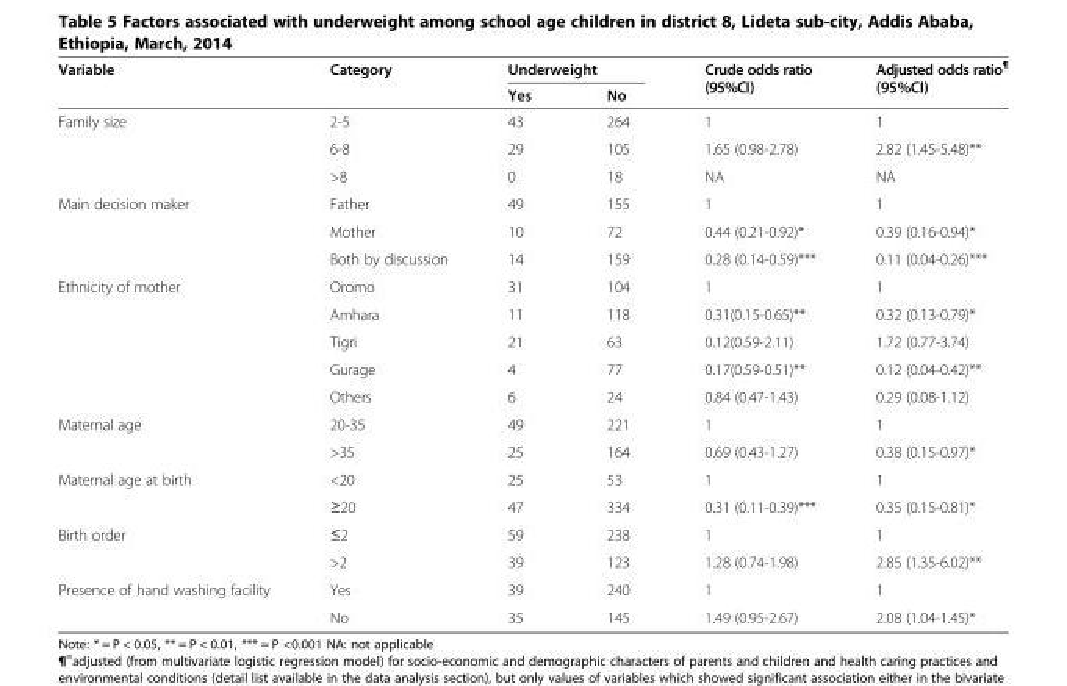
<table><thead><tr><td rowspan="2">Variable</td><td rowspan="2">Category</td><td colspan="2">Underweight</td><td rowspan="2">Crude odds ratio (95%CI)</td><td rowspan="2">Adjusted odds ratio<sup>¶</sup> (95%CI)</td></tr><tr><td>Yes</td><td>No</td></tr></thead><tbody><tr><td rowspan="3">Family size</td><td>2-5</td><td>43</td><td>264</td><td>1</td><td>1</td></tr><tr><td>6-8</td><td>29</td><td>105</td><td>1.65 (0.98-2.78)</td><td>2.82 (1.45-5.48)**</td></tr><tr><td>&gt;8</td><td>0</td><td>18</td><td>NA</td><td>NA</td></tr><tr><td rowspan="3">Main decision maker</td><td>Father</td><td>49</td><td>155</td><td>1</td><td>1</td></tr><tr><td>Mother</td><td>10</td><td>72</td><td>0.44 (0.21-0.92)*</td><td>0.39 (0.16-0.94)*</td></tr><tr><td>Both by discussion</td><td>14</td><td>159</td><td>0.28 (0.14-0.59)***</td><td>0.11 (0.04-0.26)***</td></tr><tr><td rowspan="5">Ethnicity of mother</td><td>Oromo</td><td>31</td><td>104</td><td>1</td><td>1</td></tr><tr><td>Amhara</td><td>11</td><td>118</td><td>0.31(0.15-0.65)**</td><td>0.32 (0.13-0.79)*</td></tr><tr><td>Tigri</td><td>21</td><td>63</td><td>0.12(0.59-2.11)</td><td>1.72 (0.77-3.74)</td></tr><tr><td>Gurage</td><td>4</td><td>77</td><td>0.17(0.59-0.51)**</td><td>0.12 (0.04-0.42)**</td></tr><tr><td>Others</td><td>6</td><td>24</td><td>0.84 (0.47-1.43)</td><td>0.29 (0.08-1.12)</td></tr><tr><td rowspan="2">Maternal age</td><td>20-35</td><td>49</td><td>221</td><td>1</td><td>1</td></tr><tr><td>&gt;35</td><td>25</td><td>164</td><td>0.69 (0.43-1.27)</td><td>0.38 (0.15-0.97)*</td></tr><tr><td rowspan="2">Maternal age at birth</td><td>&lt;20</td><td>25</td><td>53</td><td>1</td><td>1</td></tr><tr><td>≥20</td><td>47</td><td>334</td><td>0.31 (0.11-0.39)***</td><td>0.35 (0.15-0.81)*</td></tr><tr><td rowspan="2">Birth order</td><td>≤2</td><td>59</td><td>238</td><td>1</td><td>1</td></tr><tr><td>&gt;2</td><td>39</td><td>123</td><td>1.28 (0.74-1.98)</td><td>2.85 (1.35-6.02)**</td></tr><tr><td rowspan="2">Presence of hand washing facility</td><td>Yes</td><td>39</td><td>240</td><td>1</td><td>1</td></tr><tr><td>No</td><td>35</td><td>145</td><td>1.49 (0.95-2.67)</td><td>2.08 (1.04-1.45)*</td></tr></tbody></table>